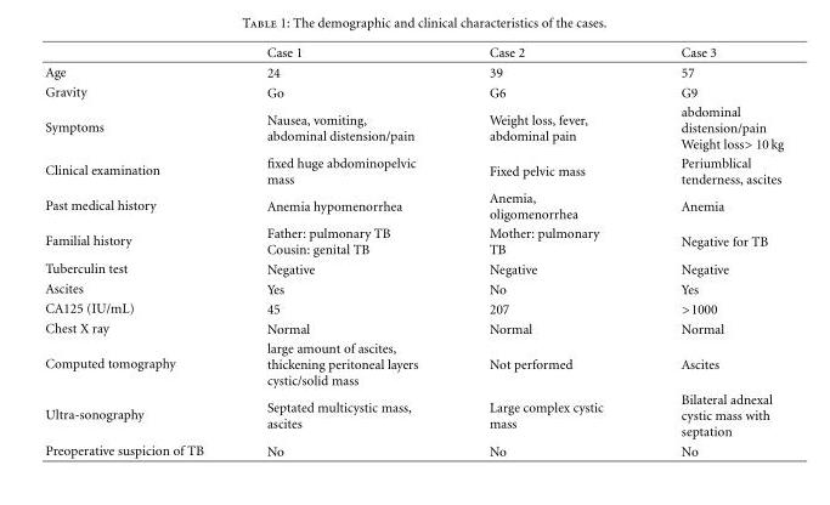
<table><thead><tr><td></td><td>Case 1</td><td>Case 2</td><td>Case 3</td></tr></thead><tbody><tr><td>Age</td><td>24</td><td>39</td><td>57</td></tr><tr><td>Gravity</td><td>Go</td><td>G6</td><td>G9</td></tr><tr><td>Symptoms</td><td>Nausea, vomiting, abdominal distension/pain</td><td>Weight loss, fever, abdominal pain</td><td>abdominal distension/pain Weight loss&gt; 10kg</td></tr><tr><td>Clinical examination</td><td>fixed huge abdominopelvic mass</td><td>Fixed pelvic mass</td><td>Periumblical tenderness, ascites</td></tr><tr><td>Past medical history</td><td>Anemia hypomenorrhea</td><td>Anemia, oligomenorrhea</td><td>Anemia</td></tr><tr><td>Familial history</td><td>Father: pulmonary TB Cousin: genital TB</td><td>Mother: pulmonary TB</td><td>Negative for TB</td></tr><tr><td>Tuberculin test</td><td>Negative</td><td>Negative</td><td>Negative</td></tr><tr><td>Ascites</td><td>Yes</td><td>No</td><td>Yes</td></tr><tr><td>CA125 (IU/mL)</td><td>45</td><td>207</td><td>&gt;1000</td></tr><tr><td>Chest X ray</td><td>Normal</td><td>Normal</td><td>Normal</td></tr><tr><td>Computed tomography</td><td>large amount of ascites, thickening peritoneal layers cystic/solid mass</td><td>Not performed</td><td>Ascites</td></tr><tr><td>Ultra-sonography</td><td>Septated multicystic mass, ascites</td><td>Large complex cystic mass</td><td>Bilateral adnexal cystic mass with septation</td></tr><tr><td>Preoperative suspicion of TB</td><td>No</td><td>No</td><td>No</td></tr></tbody></table>